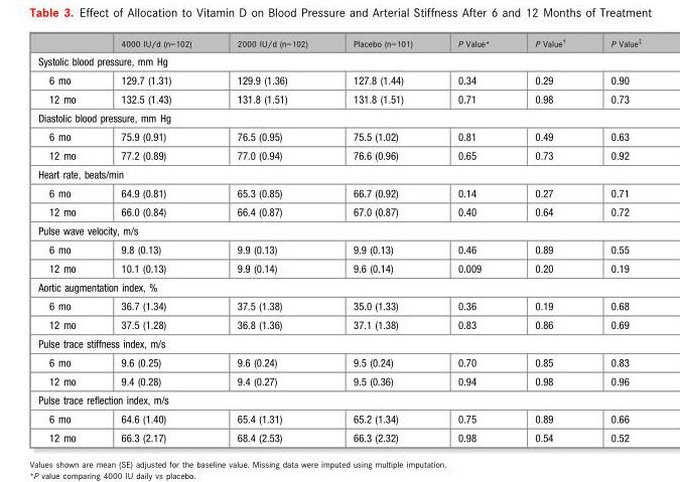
<table><thead><tr><td></td><td>4000 IU/d (n=102)</td><td>2000 IU/d (n=102)</td><td>Placebo (n=101)</td><td>P Value*</td><td>P Value†</td><td>P Value‡</td></tr></thead><tbody><tr><td colspan="7">Systolic blood pressure, mm Hg</td></tr><tr><td>6 mo</td><td>129.7 (1.31)</td><td>129.9 (1.36)</td><td>127.8 (1.44)</td><td>0.34</td><td>0.29</td><td>0.90</td></tr><tr><td>12 mo</td><td>132.5 (1.43)</td><td>131.8 (1.51)</td><td>131.8 (1.51)</td><td>0.71</td><td>0.98</td><td>0.73</td></tr><tr><td colspan="7">Diastolic blood pressure, mm Hg</td></tr><tr><td>6 mo</td><td>75.9 (0.91)</td><td>76.5 (0.95)</td><td>75.5 (1.02)</td><td>0.81</td><td>0.49</td><td>0.63</td></tr><tr><td>12 mo</td><td>77.2 (0.89)</td><td>77.0 (0.94)</td><td>76.6 (0.96)</td><td>0.65</td><td>0.73</td><td>0.92</td></tr><tr><td colspan="7">Heart rate, beats/min</td></tr><tr><td>6 mo</td><td>64.9 (0.81)</td><td>65.3 (0.85)</td><td>66.7 (0.92)</td><td>0.14</td><td>0.27</td><td>0.71</td></tr><tr><td>12 mo</td><td>66.0 (0.84)</td><td>66.4 (0.87)</td><td>67.0 (0.87)</td><td>0.40</td><td>0.64</td><td>0.72</td></tr><tr><td colspan="7">Pulse wave velocity, m/s</td></tr><tr><td>6 mo</td><td>9.8 (0.13)</td><td>9.9 (0.13)</td><td>9.9 (0.13)</td><td>0.46</td><td>0.89</td><td>0.55</td></tr><tr><td>12 mo</td><td>10.1 (0.13)</td><td>9.9 (0.14)</td><td>9.6 (0.14)</td><td>0.009</td><td>0.20</td><td>0.19</td></tr><tr><td colspan="7">Aortic augmentation index, %</td></tr><tr><td>6 mo</td><td>36.7 (1.34)</td><td>37.5 (1.38)</td><td>35.0 (1.33)</td><td>0.36</td><td>0.19</td><td>0.68</td></tr><tr><td>12 mo</td><td>37.5 (1.28)</td><td>36.8 (1.36)</td><td>37.1 (1.38)</td><td>0.83</td><td>0.86</td><td>0.69</td></tr><tr><td colspan="7">Pulse trace stiffness index, m/s</td></tr><tr><td>6 mo</td><td>9.6 (0.25)</td><td>9.6 (0.24)</td><td>9.5 (0.24)</td><td>0.70</td><td>0.85</td><td>0.83</td></tr><tr><td>12 mo</td><td>9.4 (0.28)</td><td>9.4 (0.27)</td><td>9.5 (0.36)</td><td>0.94</td><td>0.98</td><td>0.96</td></tr><tr><td colspan="7">Pulse trace reflection index, m/s</td></tr><tr><td>6 mo</td><td>64.6 (1.40)</td><td>65.4 (1.31)</td><td>65.2 (1.34)</td><td>0.75</td><td>0.89</td><td>0.66</td></tr><tr><td>12 mo</td><td>66.3 (2.17)</td><td>68.4 (2.53)</td><td>66.3 (2.32)</td><td>0.98</td><td>0.54</td><td>0.52</td></tr></tbody></table>